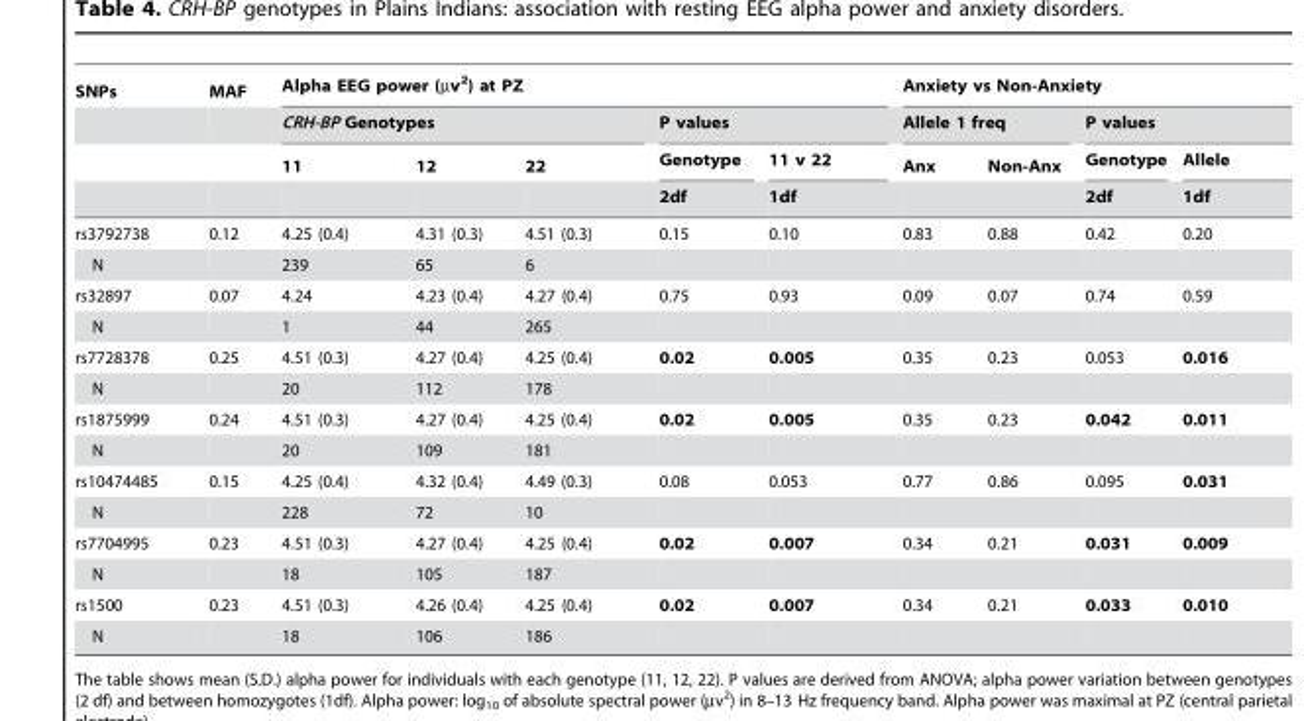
<table><thead><tr><td rowspan="4">SNPs</td><td rowspan="4">MAF</td><td colspan="5">Alpha EEG power (µv<sup>2</sup>) at PZ</td><td colspan="4">Anxiety vs Non-Anxiety</td></tr><tr><td colspan="3">CRH-BP Genotypes</td><td colspan="2">P values</td><td colspan="2">Allele 1 freq</td><td colspan="2">P values</td></tr><tr><td rowspan="2">11</td><td rowspan="2">12</td><td rowspan="2">22</td><td rowspan="2">Genotype 2df</td><td rowspan="2">11 v 22 1df</td><td rowspan="2">Anx</td><td rowspan="2">Non-Anx</td><td rowspan="2">Genotype 2df</td><td rowspan="2">Allele 1df</td></tr><tr></tr></thead><tbody><tr><td>rs3792738</td><td>0.12</td><td>4.25 (0.4)</td><td>4.31 (0.3)</td><td>4.51 (0.3)</td><td>0.15</td><td>0.10</td><td>0.83</td><td>0.88</td><td>0.42</td><td>0.20</td></tr><tr><td>N</td><td></td><td>239</td><td>65</td><td>6</td><td></td><td></td><td></td><td></td><td></td><td></td></tr><tr><td>rs32897</td><td>0.07</td><td>4.24</td><td>4.23 (0.4)</td><td>4.27 (0.4)</td><td>0.75</td><td>0.93</td><td>0.09</td><td>0.07</td><td>0.74</td><td>0.59</td></tr><tr><td>N</td><td></td><td>1</td><td>44</td><td>265</td><td></td><td></td><td></td><td></td><td></td><td></td></tr><tr><td>rs7728378</td><td>0.25</td><td>4.51 (0.3)</td><td>4.27 (0.4)</td><td>4.25 (0.4)</td><td>0.02</td><td>0.005</td><td>0.35</td><td>0.23</td><td>0.053</td><td>0.016</td></tr><tr><td>N</td><td></td><td>20</td><td>112</td><td>178</td><td></td><td></td><td></td><td></td><td></td><td></td></tr><tr><td>rs1875999</td><td>0.24</td><td>4.51 (0.3)</td><td>4.27 (0.4)</td><td>4.25 (0.4)</td><td>0.02</td><td>0.005</td><td>0.35</td><td>0.23</td><td>0.042</td><td>0.011</td></tr><tr><td>N</td><td></td><td>20</td><td>109</td><td>181</td><td></td><td></td><td></td><td></td><td></td><td></td></tr><tr><td>rs10474485</td><td>0.15</td><td>4.25 (0.4)</td><td>4.32 (0.4)</td><td>4.49 (0.3)</td><td>0.08</td><td>0.053</td><td>0.77</td><td>0.86</td><td>0.095</td><td>0.031</td></tr><tr><td>N</td><td></td><td>228</td><td>72</td><td>10</td><td></td><td></td><td></td><td></td><td></td><td></td></tr><tr><td>rs7704995</td><td>0.23</td><td>4.51 (0.3)</td><td>4.27 (0.4)</td><td>4.25 (0.4)</td><td>0.02</td><td>0.007</td><td>0.34</td><td>0.21</td><td>0.031</td><td>0.009</td></tr><tr><td>N</td><td></td><td>18</td><td>105</td><td>187</td><td></td><td></td><td></td><td></td><td></td><td></td></tr><tr><td>rs1500</td><td>0.23</td><td>4.51 (0.3)</td><td>4.26 (0.4)</td><td>4.25 (0.4)</td><td>0.02</td><td>0.007</td><td>0.34</td><td>0.21</td><td>0.033</td><td>0.010</td></tr><tr><td>N</td><td></td><td>18</td><td>106</td><td>186</td><td></td><td></td><td></td><td></td><td></td><td></td></tr></tbody></table>